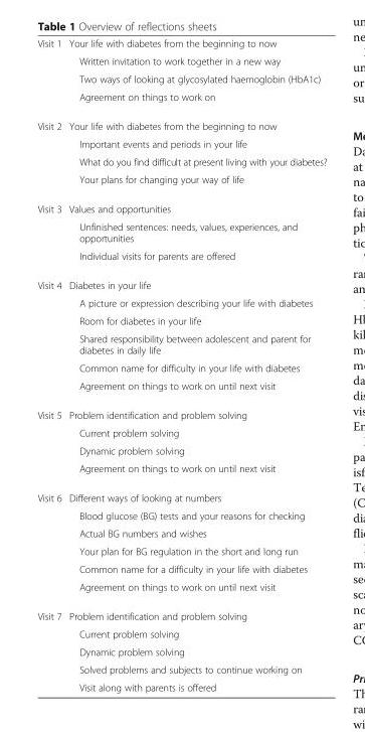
<table><tbody><tr><td rowspan="4">Visit 1</td><td>Your life with diabetes from the beginning to now</td></tr><tr><td>Written invitation to work together in a new way</td></tr><tr><td>Two ways of looking at glycosylated haemoglobin (HbA1c)</td></tr><tr><td>Agreement on things to work on</td></tr><tr><td rowspan="4">Visit 2</td><td>Your life with diabetes from the beginning to now</td></tr><tr><td>Important events and periods in your life</td></tr><tr><td>What do you find difficult at present living with your diabetes?</td></tr><tr><td>Your plans for changing your way of life</td></tr><tr><td rowspan="3">Visit 3</td><td>Values and opportunities</td></tr><tr><td>Unfinished sentences: needs, values, experiences, and opportunities</td></tr><tr><td>Individual visits for parents are offered</td></tr><tr><td rowspan="6">Visit 4</td><td>Diabetes in your life</td></tr><tr><td>A picture or expression describing your life with diabetes</td></tr><tr><td>Room for diabetes in your life</td></tr><tr><td>Shared responsibility between adolescent and parent for diabetes in daily life</td></tr><tr><td>Common name for difficulty in your life with diabetes</td></tr><tr><td>Agreement on things to work on until next visit</td></tr><tr><td rowspan="4">Visit 5</td><td>Problem identification and problem solving</td></tr><tr><td>Current problem solving</td></tr><tr><td>Dynamic problem solving</td></tr><tr><td>Agreement on things to work on until next visit</td></tr><tr><td rowspan="6">Visit 6</td><td>Different ways of looking at numbers</td></tr><tr><td>Blood glucose (BG) tests and your reasons for checking</td></tr><tr><td>Actual BG numbers and wishes</td></tr><tr><td>Your plan for BG regulation in the short and long run</td></tr><tr><td>Common name for a difficulty in your life with diabetes</td></tr><tr><td>Agreement on things to work on until next visit</td></tr><tr><td rowspan="5">Visit 7</td><td>Problem identification and problem solving</td></tr><tr><td>Current problem solving</td></tr><tr><td>Dynamic problem solving</td></tr><tr><td>Solved problems and subjects to continue working on</td></tr><tr><td>Visit along with parents is offered</td></tr></tbody></table>